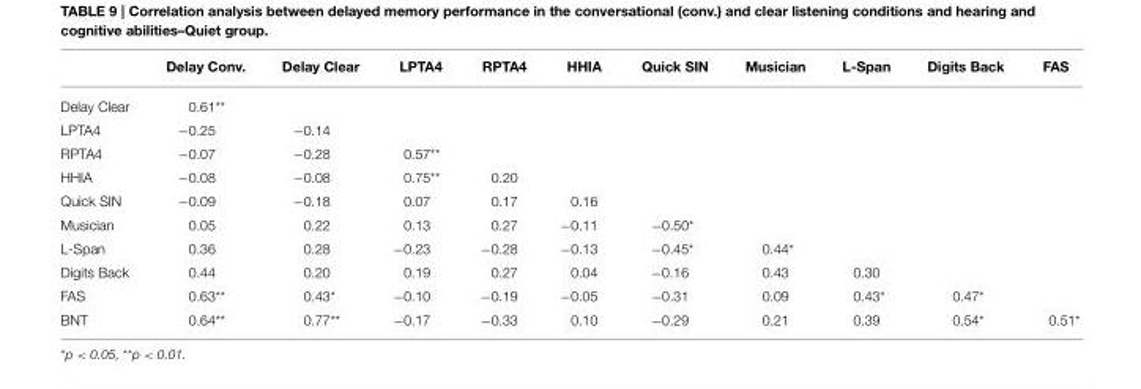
<table><thead><tr><td></td><td>Delay Conv.</td><td>Delay Clear</td><td>LPTA4</td><td>RPTA4</td><td>HHIA</td><td>Quick SIN</td><td>Musician</td><td>L-Span</td><td>Digits Back</td><td>FAS</td></tr></thead><tbody><tr><td>Delay Clear</td><td>0.61**</td><td></td><td></td><td></td><td></td><td></td><td></td><td></td><td></td><td></td></tr><tr><td>LPTA4</td><td>−0.25</td><td>−0.14</td><td></td><td></td><td></td><td></td><td></td><td></td><td></td><td></td></tr><tr><td>RPTA4</td><td>−0.07</td><td>−0.28</td><td>0.57**</td><td></td><td></td><td></td><td></td><td></td><td></td><td></td></tr><tr><td>HHIA</td><td>−0.08</td><td>−0.08</td><td>0.75**</td><td>0.20</td><td></td><td></td><td></td><td></td><td></td><td></td></tr><tr><td>Quick SIN</td><td>−0.09</td><td>−0.18</td><td>0.07</td><td>0.17</td><td>0.16</td><td></td><td></td><td></td><td></td><td></td></tr><tr><td>Musician</td><td>0.05</td><td>0.22</td><td>0.13</td><td>0.27</td><td>−0.11</td><td>−0.50*</td><td></td><td></td><td></td><td></td></tr><tr><td>L-Span</td><td>0.36</td><td>0.28</td><td>−0.23</td><td>−0.28</td><td>−0.13</td><td>−0.45*</td><td>0.44*</td><td></td><td></td><td></td></tr><tr><td>Digits Back</td><td>0.44</td><td>0.20</td><td>0.19</td><td>0.27</td><td>0.04</td><td>−0.16</td><td>0.43</td><td>0.30</td><td></td><td></td></tr><tr><td>FAS</td><td>0.63**</td><td>0.43*</td><td>−0.10</td><td>−0.19</td><td>−0.05</td><td>−0.31</td><td>0.09</td><td>0.43*</td><td>0.47*</td><td></td></tr><tr><td>BNT</td><td>0.64**</td><td>0.77**</td><td>−0.17</td><td>−0.33</td><td>0.10</td><td>−0.29</td><td>0.21</td><td>0.39</td><td>0.54*</td><td>0.51*</td></tr></tbody></table>